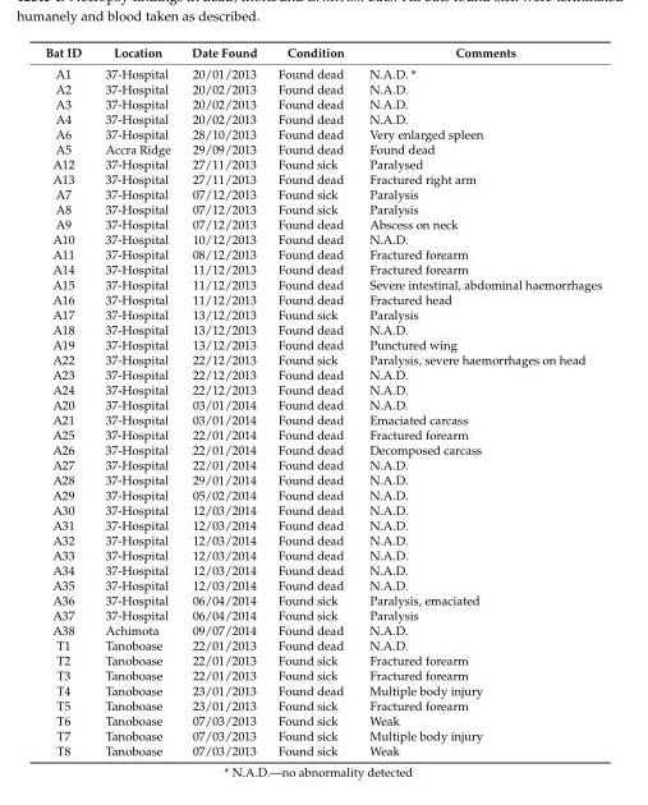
<table><thead><tr><td>Bat ID</td><td>Location</td><td>Date Found</td><td>Condition</td><td>Comments</td></tr></thead><tbody><tr><td>A1</td><td>37-Hospital</td><td>20/01/2013</td><td>Found dead</td><td>N.A.D. *</td></tr><tr><td>A2</td><td>37-Hospital</td><td>20/02/2013</td><td>Found dead</td><td>N.A.D.</td></tr><tr><td>A3</td><td>37-Hospital</td><td>20/02/2013</td><td>Found dead</td><td>N.A.D.</td></tr><tr><td>A4</td><td>37-Hospital</td><td>20/02/2013</td><td>Found dead</td><td>N.A.D.</td></tr><tr><td>A6</td><td>37-Hospital</td><td>28/10/2013</td><td>Found dead</td><td>Very enlarged spleen</td></tr><tr><td>A5</td><td>Accra Ridge</td><td>29/09/2013</td><td>Found dead</td><td>Found dead</td></tr><tr><td>A12</td><td>37-Hospital</td><td>27/11/2013</td><td>Found sick</td><td>Paralysed</td></tr><tr><td>A13</td><td>37-Hospital</td><td>27/11/2013</td><td>Found dead</td><td>Fractured right arm</td></tr><tr><td>A7</td><td>37-Hospital</td><td>07/12/2013</td><td>Found sick</td><td>Paralysis</td></tr><tr><td>A8</td><td>37-Hospital</td><td>07/12/2013</td><td>Found sick</td><td>Paralysis</td></tr><tr><td>A9</td><td>37-Hospital</td><td>07/12/2013</td><td>Found dead</td><td>Abscess on neck</td></tr><tr><td>A10</td><td>37-Hospital</td><td>10/12/2013</td><td>Found dead</td><td>N.A.D.</td></tr><tr><td>A11</td><td>37-Hospital</td><td>08/12/2013</td><td>Found dead</td><td>Fractured forearm</td></tr><tr><td>A14</td><td>37-Hospital</td><td>11/12/2013</td><td>Found dead</td><td>Fractured forearm</td></tr><tr><td>A15</td><td>37-Hospital</td><td>11/12/2013</td><td>Found dead</td><td>Severe intestinal, abdominal haemorrhages</td></tr><tr><td>A16</td><td>37-Hospital</td><td>11/12/2013</td><td>Found dead</td><td>Fractured head</td></tr><tr><td>A17</td><td>37-Hospital</td><td>13/12/2013</td><td>Found sick</td><td>Paralysis</td></tr><tr><td>A18</td><td>37-Hospital</td><td>13/12/2013</td><td>Found dead</td><td>N.A.D.</td></tr><tr><td>A19</td><td>37-Hospital</td><td>13/12/2013</td><td>Found dead</td><td>Punctured wing</td></tr><tr><td>A22</td><td>37-Hospital</td><td>22/12/2013</td><td>Found sick</td><td>Paralysis, severe haemorrhages on head</td></tr><tr><td>A23</td><td>37-Hospital</td><td>22/12/2013</td><td>Found dead</td><td>N.A.D.</td></tr><tr><td>A24</td><td>37-Hospital</td><td>22/12/2013</td><td>Found dead</td><td>N.A.D.</td></tr><tr><td>A20</td><td>37-Hospital</td><td>03/01/2014</td><td>Found dead</td><td>N.A.D.</td></tr><tr><td>A21</td><td>37-Hospital</td><td>03/01/2014</td><td>Found dead</td><td>Emaciated carcass</td></tr><tr><td>A25</td><td>37-Hospital</td><td>22/01/2014</td><td>Found dead</td><td>Fractured forearm</td></tr><tr><td>A26</td><td>37-Hospital</td><td>22/01/2014</td><td>Found dead</td><td>Decomposed carcass</td></tr><tr><td>A27</td><td>37-Hospital</td><td>22/01/2014</td><td>Found dead</td><td>N.A.D.</td></tr><tr><td>A28</td><td>37-Hospital</td><td>29/01/2014</td><td>Found dead</td><td>N.A.D.</td></tr><tr><td>A29</td><td>37-Hospital</td><td>05/02/2014</td><td>Found dead</td><td>N.A.D.</td></tr><tr><td>A30</td><td>37-Hospital</td><td>12/03/2014</td><td>Found dead</td><td>N.A.D.</td></tr><tr><td>A31</td><td>37-Hospital</td><td>12/03/2014</td><td>Found dead</td><td>N.A.D.</td></tr><tr><td>A32</td><td>37-Hospital</td><td>12/03/2014</td><td>Found dead</td><td>N.A.D.</td></tr><tr><td>A33</td><td>37-Hospital</td><td>12/03/2014</td><td>Found dead</td><td>N.A.D.</td></tr><tr><td>A34</td><td>37-Hospital</td><td>12/03/2014</td><td>Found dead</td><td>N.A.D.</td></tr><tr><td>A35</td><td>37-Hospital</td><td>12/03/2014</td><td>Found dead</td><td>N.A.D.</td></tr><tr><td>A36</td><td>37-Hospital</td><td>06/04/2014</td><td>Found sick</td><td>Paralysis, emaciated</td></tr><tr><td>A37</td><td>37-Hospital</td><td>06/04/2014</td><td>Found sick</td><td>Paralysis</td></tr><tr><td>A38</td><td>Achimota</td><td>09/07/2014</td><td>Found dead</td><td>N.A.D.</td></tr><tr><td>T1</td><td>Tanoboase</td><td>22/01/2013</td><td>Found dead</td><td>N.A.D.</td></tr><tr><td>T2</td><td>Tanoboase</td><td>22/01/2013</td><td>Found sick</td><td>Fractured forearm</td></tr><tr><td>T3</td><td>Tanoboase</td><td>22/01/2013</td><td>Found sick</td><td>Fractured forearm</td></tr><tr><td>T4</td><td>Tanoboase</td><td>23/01/2013</td><td>Found dead</td><td>Multiple body injury</td></tr><tr><td>T5</td><td>Tanoboase</td><td>23/01/2013</td><td>Found sick</td><td>Fractured forearm</td></tr><tr><td>T6</td><td>Tanoboase</td><td>07/03/2013</td><td>Found sick</td><td>Weak</td></tr><tr><td>T7</td><td>Tanoboase</td><td>07/03/2013</td><td>Found sick</td><td>Multiple body injury</td></tr><tr><td>T8</td><td>Tanoboase</td><td>07/03/2013</td><td>Found sick</td><td>Weak</td></tr></tbody></table>